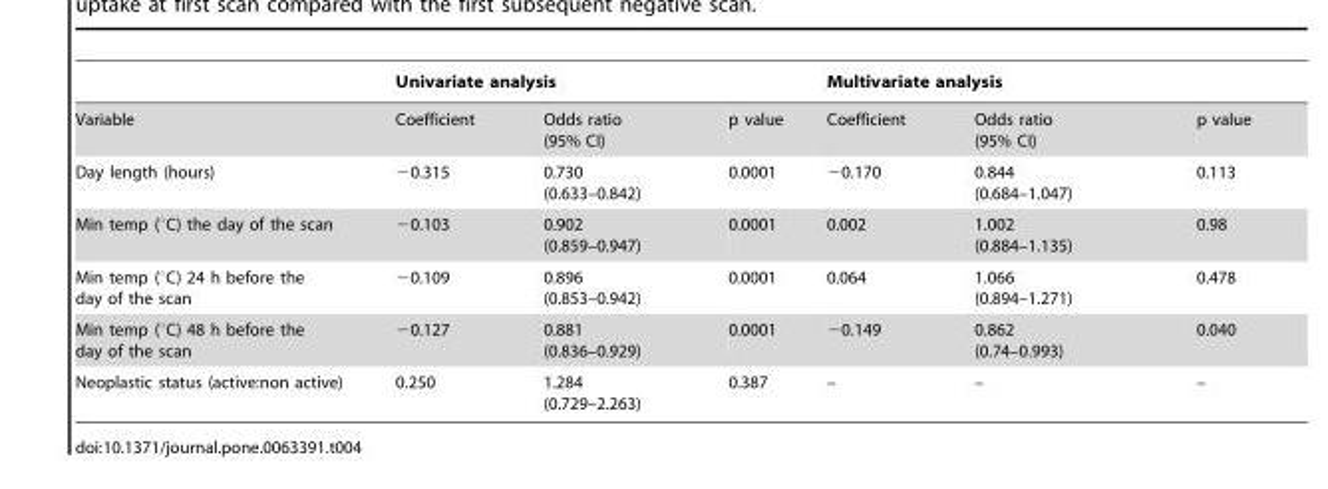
<table><thead><tr><td rowspan="2">Variable</td><td colspan="3">Univariate analysis</td><td colspan="3">Multivariate analysis</td></tr><tr><td>Coefficient</td><td>Odds ratio (95% CI)</td><td>p value</td><td>Coefficient</td><td>Odds ratio (95% CI)</td><td>p value</td></tr></thead><tbody><tr><td>Day length (hours)</td><td>−0.315</td><td>0.730 (0.633–0.842)</td><td>0.0001</td><td>−0.170</td><td>0.844 (0.684–1.047)</td><td>0.113</td></tr><tr><td>Min temp (°C) the day of the scan</td><td>−0.103</td><td>0.902 (0.859–0.947)</td><td>0.0001</td><td>0.002</td><td>1.002 (0.884–1.135)</td><td>0.98</td></tr><tr><td>Min temp (°C) 24 h before the day of the scan</td><td>−0.109</td><td>0.896 (0.853–0.942)</td><td>0.0001</td><td>0.064</td><td>1.066 (0.894–1.271)</td><td>0.478</td></tr><tr><td>Min temp (°C) 48 h before the day of the scan</td><td>−0.127</td><td>0.881 (0.836–0.929)</td><td>0.0001</td><td>−0.149</td><td>0.862 (0.74–0.993)</td><td>0.040</td></tr><tr><td>Neoplastic status (active:non active)</td><td>0.250</td><td>1.284 (0.729–2.263)</td><td>0.387</td><td>–</td><td>–</td><td>–</td></tr></tbody></table>